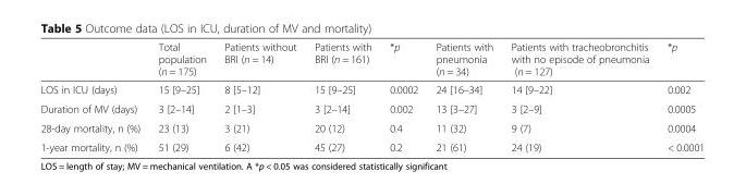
<table><thead><tr><td></td><td>Total population (n = 175)</td><td>Patients without BRI (n = 14)</td><td>Patients with BRI (n = 161)</td><td>*p</td><td>Patients with pneumonia (n = 34)</td><td>Patients with tracheobronchitis with no episode of pneumonia (n = 127)</td><td>*p</td></tr></thead><tbody><tr><td>LOS in ICU (days)</td><td>15 [9–25]</td><td>8 [5–12]</td><td>15 [9–25]</td><td>0.0002</td><td>24 [16–34]</td><td>14 [9–22]</td><td>0.002</td></tr><tr><td>Duration of MV (days)</td><td>3 [2–14]</td><td>2 [1–3]</td><td>3 [2–14]</td><td>0.002</td><td>13 [3–27]</td><td>3 [2–9]</td><td>0.0005</td></tr><tr><td>28-day mortality, n (%)</td><td>23 (13)</td><td>3 (21)</td><td>20 (12)</td><td>0.4</td><td>11 (32)</td><td>9 (7)</td><td>0.0004</td></tr><tr><td>1-year mortality, n (%)</td><td>51 (29)</td><td>6 (42)</td><td>45 (27)</td><td>0.2</td><td>21 (61)</td><td>24 (19)</td><td>&lt; 0.0001</td></tr></tbody></table>